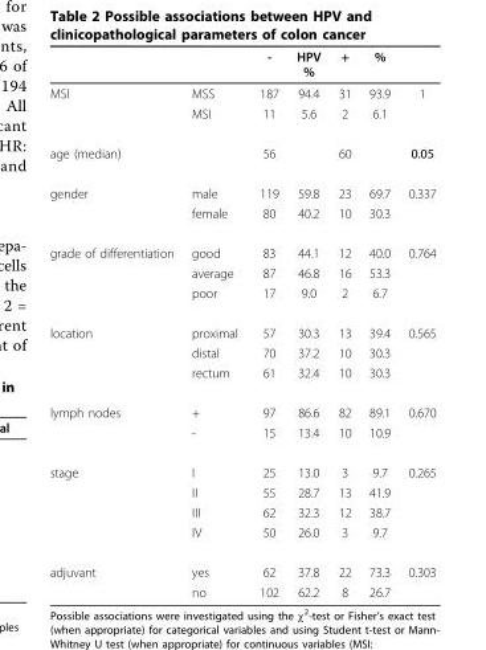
<table><thead><tr><td></td><td></td><td>-</td><td>HPV %</td><td>+</td><td>%</td><td></td></tr></thead><tbody><tr><td rowspan="2">MSI</td><td>MSS</td><td>187</td><td>94.4</td><td>31</td><td>93.9</td><td>1</td></tr><tr><td>MSI</td><td>11</td><td>5.6</td><td>2</td><td>6.1</td><td></td></tr><tr><td>age (median)</td><td></td><td>56</td><td></td><td>60</td><td></td><td>0.05</td></tr><tr><td rowspan="2">gender</td><td>male</td><td>119</td><td>59.8</td><td>23</td><td>69.7</td><td>0.337</td></tr><tr><td>female</td><td>80</td><td>40.2</td><td>10</td><td>30.3</td><td></td></tr><tr><td rowspan="3">grade of differentiation</td><td>good</td><td>83</td><td>44.1</td><td>12</td><td>40.0</td><td>0.764</td></tr><tr><td>average</td><td>87</td><td>46.8</td><td>16</td><td>53.3</td><td></td></tr><tr><td>poor</td><td>17</td><td>9.0</td><td>2</td><td>6.7</td><td></td></tr><tr><td rowspan="3">location</td><td>proximal</td><td>57</td><td>30.3</td><td>13</td><td>39.4</td><td>0.565</td></tr><tr><td>distal</td><td>70</td><td>37.2</td><td>10</td><td>30.3</td><td></td></tr><tr><td>rectum</td><td>61</td><td>32.4</td><td>10</td><td>30.3</td><td></td></tr><tr><td rowspan="2">lymph nodes</td><td>+</td><td>97</td><td>86.6</td><td>82</td><td>89.1</td><td>0.670</td></tr><tr><td>-</td><td>15</td><td>13.4</td><td>10</td><td>10.9</td><td></td></tr><tr><td rowspan="4">stage</td><td>I</td><td>25</td><td>13.0</td><td>3</td><td>9.7</td><td>0.265</td></tr><tr><td>II</td><td>55</td><td>28.7</td><td>13</td><td>41.9</td><td></td></tr><tr><td>III</td><td>62</td><td>32.3</td><td>12</td><td>38.7</td><td></td></tr><tr><td>IV</td><td>50</td><td>26.0</td><td>3</td><td>9.7</td><td></td></tr><tr><td rowspan="2">adjuvant</td><td>yes</td><td>62</td><td>37.8</td><td>22</td><td>73.3</td><td>0.303</td></tr><tr><td>no</td><td>102</td><td>62.2</td><td>8</td><td>26.7</td><td></td></tr></tbody></table>